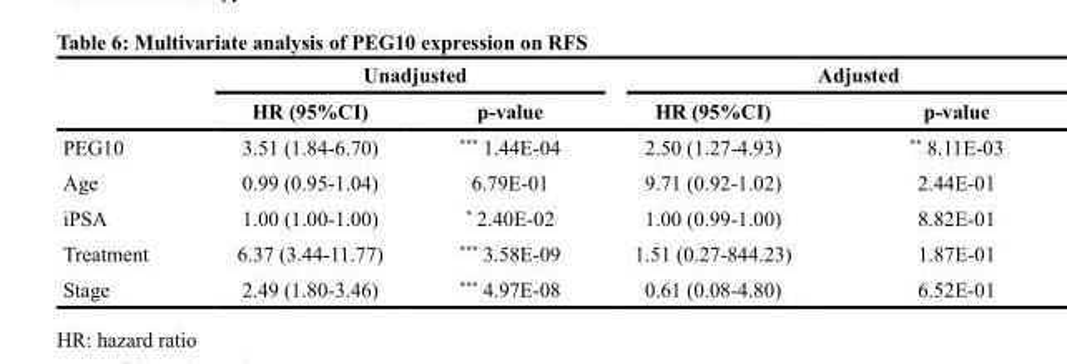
<table><thead><tr><td rowspan="2"></td><td colspan="2">Unadjusted</td><td colspan="2">Adjusted</td></tr><tr><td>HR (95%CI)</td><td>p-value</td><td>HR (95%CI)</td><td>p-value</td></tr></thead><tbody><tr><td>PEG10</td><td>3.51 (1.84-6.70)</td><td>*** 1.44E-04</td><td>2.50 (1.27-4.93)</td><td>** 8.11E-03</td></tr><tr><td>Age</td><td>0.99 (0.95-1.04)</td><td>6.79E-01</td><td>9.71 (0.92-1.02)</td><td>2.44E-01</td></tr><tr><td>iPSA</td><td>1.00 (1.00-1.00)</td><td>* 2.40E-02</td><td>1.00 (0.99-1.00)</td><td>8.82E-01</td></tr><tr><td>Treatment</td><td>6.37 (3.44-11.77)</td><td>*** 3.58E-09</td><td>1.51 (0.27-844.23)</td><td>1.87E-01</td></tr><tr><td>Stage</td><td>2.49 (1.80-3.46)</td><td>*** 4.97E-08</td><td>0.61 (0.08-4.80)</td><td>6.52E-01</td></tr></tbody></table>